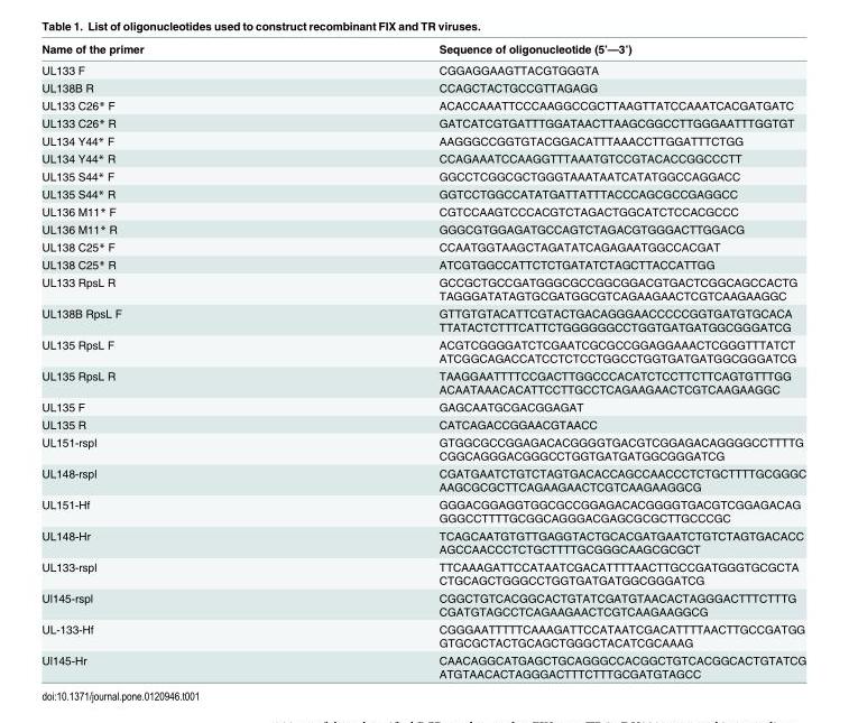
<table><thead><tr><td>Name of the primer</td><td>Sequence of oligonucleotide (5’—3’)</td></tr></thead><tbody><tr><td>UL133 F</td><td>CGGAGGAAGTTACGTGGGTA</td></tr><tr><td>UL138B R</td><td>CCAGCTACTGCCGTTAGAGG</td></tr><tr><td>UL133 C26* F</td><td>ACACCAAATTCCCAAGGCCGCTTAAGTTATCCAAATCACGATGATC</td></tr><tr><td>UL133 C26* R</td><td>GATCATCGTGATTTGGATAACTTAAGCGGCCTTGGGAATTTGGTGT</td></tr><tr><td>UL134 Y44* F</td><td>AAGGGCCGGTGTACGGACATTTAAACCTTGGATTTCTGG</td></tr><tr><td>UL134 Y44* R</td><td>CCAGAAATCCAAGGTTTAAATGTCCGTACACCGGCCCTT</td></tr><tr><td>UL135 S44* F</td><td>GGCCTCGGCGCTGGGTAAATAATCATATGGCCAGGACC</td></tr><tr><td>UL135 S44* R</td><td>GGTCCTGGCCATATGATTATTTACCCAGCGCCGAGGCC</td></tr><tr><td>UL136 M11* F</td><td>CGTCCAAGTCCCACGTCTAGACTGGCATCTCCACGCCC</td></tr><tr><td>UL136 M11* R</td><td>GGGCGTGGAGATGCCAGTCTAGACGTGGGACTTGGACG</td></tr><tr><td>UL138 C25* F</td><td>CCAATGGTAAGCTAGATATCAGAGAATGGCCACGAT</td></tr><tr><td>UL138 C25* R</td><td>ATCGTGGCCATTCTCTGATATCTAGCTTACCATTGG</td></tr><tr><td>UL133 RpsL R</td><td>GCCGCTGCCGATGGGCGCCGGCGGACGTGACTCGGCAGCCACTG TAGGGATATAGTGCGATGGCGTCAGAAGAACTCGTCAAGAAGGC</td></tr><tr><td>UL138B RpsL F</td><td>GTTGTGTACATTCGTACTGACAGGGAACCCCCGGTGATGTGCACA TTATACTCTTTCATTCTGGGGGGCCTGGTGATGATGGCGGGATCG</td></tr><tr><td>UL135 RpsL F</td><td>ACGTCGGGGATCTCGAATCGCGCCGGAGGAAACTCGGGTTTATCT ATCGGCAGACCATCCTCTCCTGGCCTGGTGATGATGGCGGGATCG</td></tr><tr><td>UL135 RpsL R</td><td>TAAGGAATTTTCCGACTTGGCCCACATCTCCTTCTTCAGTGTTTGG ACAATAAACACATTCCTTGCCTCAGAAGAACTCGTCAAGAAGGC</td></tr><tr><td>UL135 F</td><td>GAGCAATGCGACGGAGAT</td></tr><tr><td>UL135 R</td><td>CATCAGACCGGAACGTAACC</td></tr><tr><td>UL151-rspl</td><td>GTGGCGCCGGAGACACGGGGTGACGTCGGAGACAGGGGCCTTTTG CGGCAGGGACGGGCCTGGTGATGATGGCGGGATCG</td></tr><tr><td>UL148-rspl</td><td>CGATGAATCTGTCTAGTGACACCAGCCAACCCTCTGCTTTTGCGGGC AAGCGCGCTTCAGAAGAACTCGTCAAGAAGGCG</td></tr><tr><td>UL151-Hf</td><td>GGGACGGAGGTGGCGCCGGAGACACGGGGTGACGTCGGAGACAG GGGCCTTTTGCGGCAGGGACGAGCGCGCTTGCCCGC</td></tr><tr><td>UL148-Hr</td><td>TCAGCAATGTGTTGAGGTACTGCACGATGAATCTGTCTAGTGACACC AGCCAACCCTCTGCTTTTGCGGGCAAGCGCGCT</td></tr><tr><td>UL133-rspl</td><td>TTCAAAGATTCCATAATCGACATTTTAACTTGCCGATGGGTGCGCTA CTGCAGCTGGGCCTGGTGATGATGGCGGGATCG</td></tr><tr><td>Ul145-rspl</td><td>CGGCTGTCACGGCACTGTATCGATGTAACACTAGGGACTTTCTTTG CGATGTAGCCTCAGAAGAACTCGTCAAGAAGGCG</td></tr><tr><td>UL-133-Hf</td><td>CGGGAATTTTTCAAAGATTCCATAATCGACATTTTAACTTGCCGATGG GTGCGCTACTGCAGCTGGGCTACATCGCAAAG</td></tr><tr><td>Ul145-Hr</td><td>CAACAGGCATGAGCTGCAGGGCCACGGCTGTCACGGCACTGTATCG ATGTAACACTAGGGACTTTCTTTGCGATGTAGCC</td></tr></tbody></table>